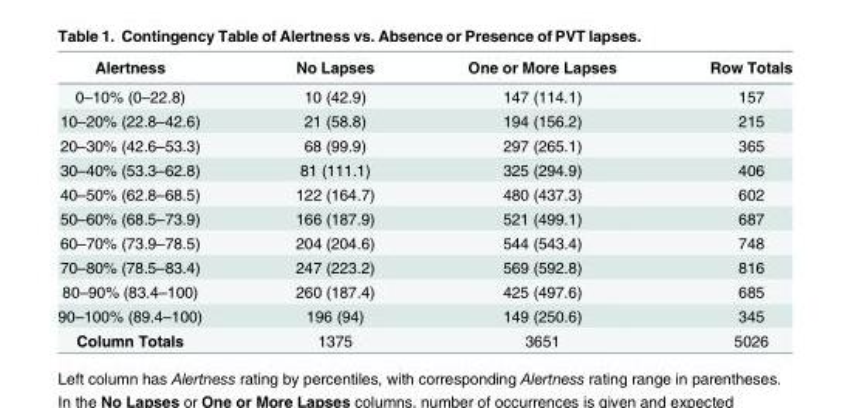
<table><thead><tr><td>Alertness</td><td>No Lapses</td><td>One or More Lapses</td><td>Row Totals</td></tr></thead><tbody><tr><td>0–10% (0–22.8)</td><td>10 (42.9)</td><td>147 (114.1)</td><td>157</td></tr><tr><td>10–20% (22.8–42.6)</td><td>21 (58.8)</td><td>194 (156.2)</td><td>215</td></tr><tr><td>20–30% (42.6–53.3)</td><td>68 (99.9)</td><td>297 (265.1)</td><td>365</td></tr><tr><td>30–40% (53.3–62.8)</td><td>81 (111.1)</td><td>325 (294.9)</td><td>406</td></tr><tr><td>40–50% (62.8–68.5)</td><td>122 (164.7)</td><td>480 (437.3)</td><td>602</td></tr><tr><td>50–60% (68.5–73.9)</td><td>166 (187.9)</td><td>521 (499.1)</td><td>687</td></tr><tr><td>60–70% (73.9–78.5)</td><td>204 (204.6)</td><td>544 (543.4)</td><td>748</td></tr><tr><td>70–80% (78.5–83.4)</td><td>247 (223.2)</td><td>569 (592.8)</td><td>816</td></tr><tr><td>80–90% (83.4–100)</td><td>260 (187.4)</td><td>425 (497.6)</td><td>685</td></tr><tr><td>90–100% (89.4–100)</td><td>196 (94)</td><td>149 (250.6)</td><td>345</td></tr><tr><td>Column Totals</td><td>1375</td><td>3651</td><td>5026</td></tr></tbody></table>